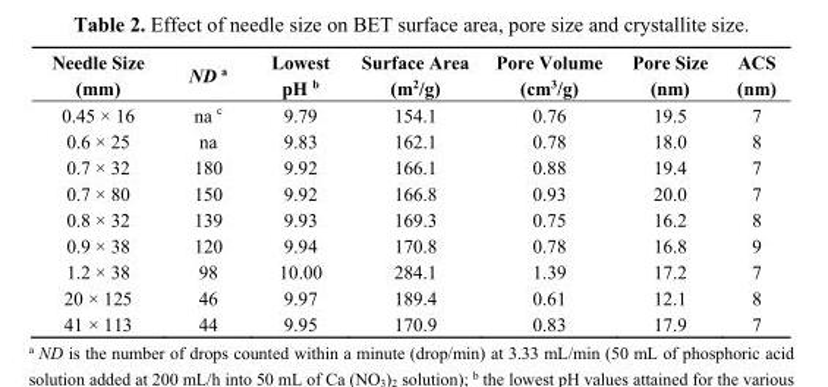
<table><thead><tr><td>Needle Size (mm)</td><td>ND <sup>a</sup></td><td>Lowest pH <sup>b</sup></td><td>Surface Area (m<sup>2</sup>/g)</td><td>Pore Volume (cm<sup>3</sup>/g)</td><td>Pore Size (nm)</td><td>ACS (nm)</td></tr></thead><tbody><tr><td>0.45 × 16</td><td>na <sup>c</sup></td><td>9.79</td><td>154.1</td><td>0.76</td><td>19.5</td><td>7</td></tr><tr><td>0.6 × 25</td><td>na</td><td>9.83</td><td>162.1</td><td>0.78</td><td>18.0</td><td>8</td></tr><tr><td>0.7 × 32</td><td>180</td><td>9.92</td><td>166.1</td><td>0.88</td><td>19.4</td><td>7</td></tr><tr><td>0.7 × 80</td><td>150</td><td>9.92</td><td>166.8</td><td>0.93</td><td>20.0</td><td>7</td></tr><tr><td>0.8 × 32</td><td>139</td><td>9.93</td><td>169.3</td><td>0.75</td><td>16.2</td><td>8</td></tr><tr><td>0.9 × 38</td><td>120</td><td>9.94</td><td>170.8</td><td>0.78</td><td>16.8</td><td>9</td></tr><tr><td>1.2 × 38</td><td>98</td><td>10.00</td><td>284.1</td><td>1.39</td><td>17.2</td><td>7</td></tr><tr><td>20 × 125</td><td>46</td><td>9.97</td><td>189.4</td><td>0.61</td><td>12.1</td><td>8</td></tr><tr><td>41 × 113</td><td>44</td><td>9.95</td><td>170.9</td><td>0.83</td><td>17.9</td><td>7</td></tr></tbody></table>